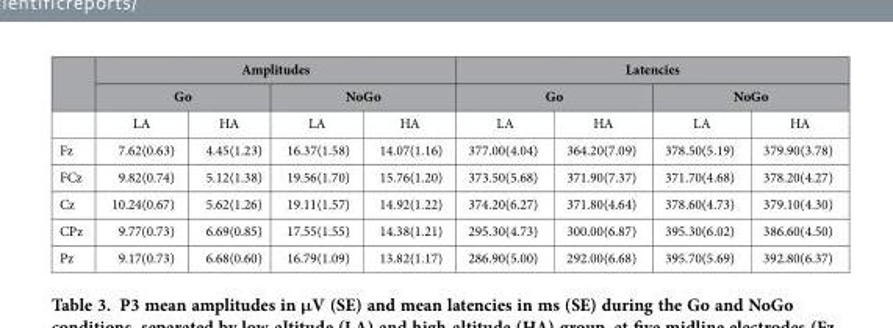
<table><thead><tr><td rowspan="3"></td><td colspan="4">Amplitudes</td><td colspan="4">Latencies</td></tr><tr><td colspan="2">Go</td><td colspan="2">NoGo</td><td colspan="2">Go</td><td colspan="2">NoGo</td></tr><tr><td>LA</td><td>HA</td><td>LA</td><td>HA</td><td>LA</td><td>HA</td><td>LA</td><td>HA</td></tr></thead><tbody><tr><td>Fz</td><td>7.62(0.63)</td><td>4.45(1.23)</td><td>16.37(1.58)</td><td>14.07(1.16)</td><td>377.00(4.04)</td><td>364.20(7.09)</td><td>378.50(5.19)</td><td>379.90(3.78)</td></tr><tr><td>FCz</td><td>9.82(0.74)</td><td>5.12(1.38)</td><td>19.56(1.70)</td><td>15.76(1.20)</td><td>373.50(5.68)</td><td>371.90(7.37)</td><td>371.70(4.68)</td><td>378.20(4.27)</td></tr><tr><td>Cz</td><td>10.24(0.67)</td><td>5.62(1.26)</td><td>19.11(1.57)</td><td>14.92(1.22)</td><td>374.20(6.27)</td><td>371.80(4.64)</td><td>378.60(4.73)</td><td>379.10(4.30)</td></tr><tr><td>CPz</td><td>9.77(0.73)</td><td>6.69(0.85)</td><td>17.55(1.55)</td><td>14.38(1.21)</td><td>295.30(4.73)</td><td>300.00(6.87)</td><td>395.30(6.02)</td><td>386.60(4.50)</td></tr><tr><td>Pz</td><td>9.17(0.73)</td><td>6.68(0.60)</td><td>16.79(1.09)</td><td>13.82(1.17)</td><td>286.90(5.00)</td><td>292.00(6.68)</td><td>395.70(5.69)</td><td>392.80(6.37)</td></tr></tbody></table>